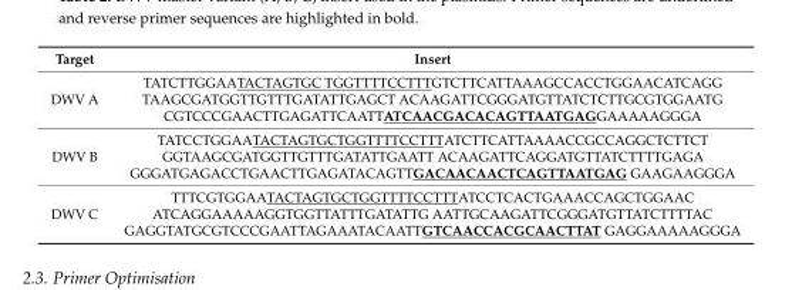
<table><thead><tr><td>Target</td><td>Insert</td></tr></thead><tbody><tr><td>DWV A</td><td>TATCTTGGAATACTAGTGC TGGTTTTCCTTTGTCTTCATTAAAGCCACCTGGAACATCAGG TAAGCGATGGTTGTTTGATATTGAGCT ACAAGATTCGGGATGTTATCTCTTGCGTGGAATG CGTCCCGAACTTGAGATTCAATTATCAACGACACAGTTAATGAGGAAAAAGGGA</td></tr><tr><td>DWV B</td><td>TATCCTGGAATACTAGTGCTGGTTTTCCTTTATCTTCATTAAAACCGCCAGGCTCTTCT GGTAAGCGATGGTTGTTTGATATTGAATT ACAAGATTCAGGATGTTATCTTTTGAGA GGGATGAGACCTGAACTTGAGATACAGTTGACAACAACTCAGTTAATGAG GAAGAAGGGA</td></tr><tr><td>DWV C</td><td>TTTCGTGGAATACTAGTGCTGGTTTTCCTTTATCCTCACTGAAACCAGCTGGAAC ATCAGGAAAAAGGTGGTTATTTGATATTG AATTGCAAGATTCGGGATGTTATCTTTTAC GAGGTATGCGTCCCGAATTAGAAATACAATTGTCAACCACGCAACTTAT GAGGAAAAAGGGA</td></tr></tbody></table>